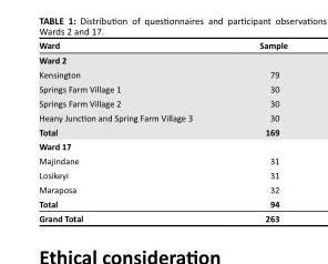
<table><thead><tr><td>Ward</td><td>Sample</td></tr></thead><tbody><tr><td colspan="2">Ward 2</td></tr><tr><td>Kensington</td><td>79</td></tr><tr><td>Springs Farm Village 1</td><td>30</td></tr><tr><td>Springs Farm Village 2</td><td>30</td></tr><tr><td>Heany Junction and Spring Farm Village 3</td><td>30</td></tr><tr><td>Total</td><td>169</td></tr><tr><td colspan="2">Ward 17</td></tr><tr><td>Majindane</td><td>31</td></tr><tr><td>Losikeyi</td><td>31</td></tr><tr><td>Maraposa</td><td>32</td></tr><tr><td>Total</td><td>94</td></tr><tr><td>Grand Total</td><td>263</td></tr></tbody></table>